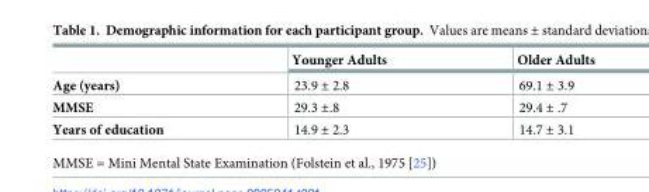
<table><thead><tr><td></td><td>Younger Adults</td><td>Older Adults</td></tr></thead><tbody><tr><td>Age (years)</td><td>23.9 ± 2.8</td><td>69.1 ± 3.9</td></tr><tr><td>MMSE</td><td>29.3 ±.8</td><td>29.4 ± .7</td></tr><tr><td>Years of education</td><td>14.9 ± 2.3</td><td>14.7 ± 3.1</td></tr></tbody></table>